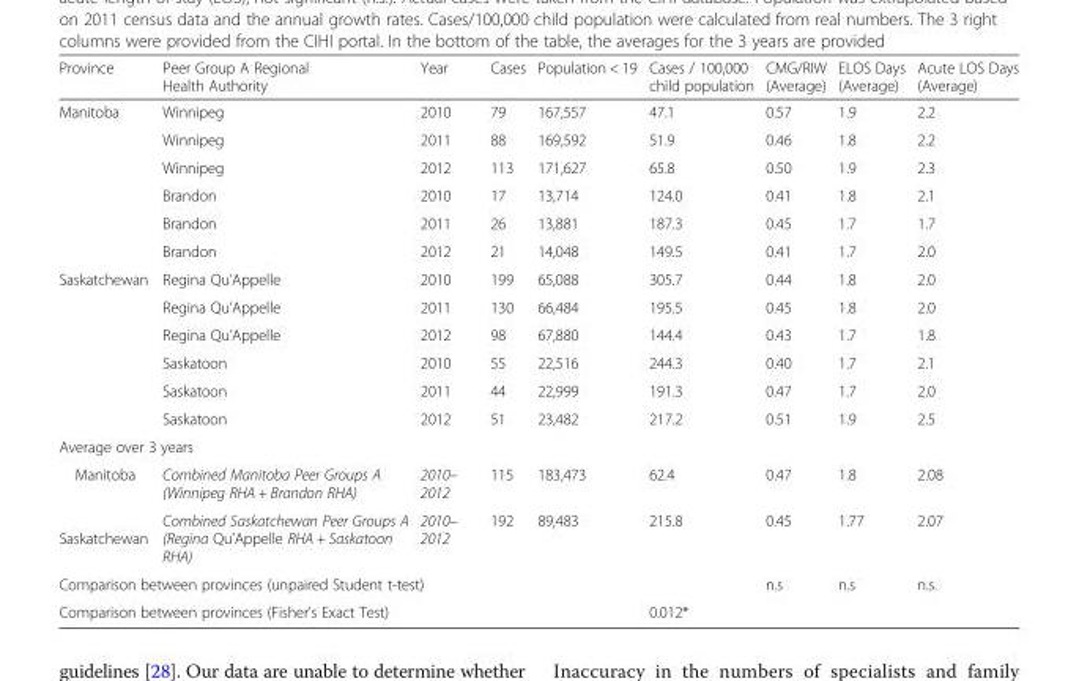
<table><thead><tr><td>Province</td><td>Peer Group A Regional Health Authority</td><td>Year</td><td>Cases</td><td>Population &lt; 19</td><td>Cases / 100,000 child population</td><td>CMG/RIW (Average)</td><td>ELOS Days (Average)</td><td>Acute LOS Days (Average)</td></tr></thead><tbody><tr><td rowspan="6">Manitoba</td><td>Winnipeg</td><td>2010</td><td>79</td><td>167,557</td><td>47.1</td><td>0.57</td><td>1.9</td><td>2.2</td></tr><tr><td>Winnipeg</td><td>2011</td><td>88</td><td>169,592</td><td>51.9</td><td>0.46</td><td>1.8</td><td>2.2</td></tr><tr><td>Winnipeg</td><td>2012</td><td>113</td><td>171,627</td><td>65.8</td><td>0.50</td><td>1.9</td><td>2.3</td></tr><tr><td>Brandon</td><td>2010</td><td>17</td><td>13,714</td><td>124.0</td><td>0.41</td><td>1.8</td><td>2.1</td></tr><tr><td>Brandon</td><td>2011</td><td>26</td><td>13,881</td><td>187.3</td><td>0.45</td><td>1.7</td><td>1.7</td></tr><tr><td>Brandon</td><td>2012</td><td>21</td><td>14,048</td><td>149.5</td><td>0.41</td><td>1.7</td><td>2.0</td></tr><tr><td rowspan="6">Saskatchewan</td><td>Regina Qu’Appelle</td><td>2010</td><td>199</td><td>65,088</td><td>305.7</td><td>0.44</td><td>1.8</td><td>2.0</td></tr><tr><td>Regina Qu’Appelle</td><td>2011</td><td>130</td><td>66,484</td><td>195.5</td><td>0.45</td><td>1.8</td><td>2.0</td></tr><tr><td>Regina Qu’Appelle</td><td>2012</td><td>98</td><td>67,880</td><td>144.4</td><td>0.43</td><td>1.7</td><td>1.8</td></tr><tr><td>Saskatoon</td><td>2010</td><td>55</td><td>22,516</td><td>244.3</td><td>0.40</td><td>1.7</td><td>2.1</td></tr><tr><td>Saskatoon</td><td>2011</td><td>44</td><td>22,999</td><td>191.3</td><td>0.47</td><td>1.7</td><td>2.0</td></tr><tr><td>Saskatoon</td><td>2012</td><td>51</td><td>23,482</td><td>217.2</td><td>0.51</td><td>1.9</td><td>2.5</td></tr><tr><td colspan="9">Average over 3 years</td></tr><tr><td>Manitoba</td><td>Combined Manitoba Peer Groups A (Winnipeg RHA + Brandon RHA)</td><td>2010– 2012</td><td>115</td><td>183,473</td><td>62.4</td><td>0.47</td><td>1.8</td><td>2.08</td></tr><tr><td>Saskatchewan</td><td>Combined Saskatchewan Peer Groups A (Regina Qu’Appelle RHA + Saskatoon RHA)</td><td>2010– 2012</td><td>192</td><td>89,483</td><td>215.8</td><td>0.45</td><td>1.77</td><td>2.07</td></tr><tr><td colspan="3">Comparison between provinces (unpaired Student t-test)</td><td colspan="3"></td><td>n.s</td><td>n.s</td><td>n.s.</td></tr><tr><td colspan="3">Comparison between provinces (Fisher’s Exact Test)</td><td colspan="2"></td><td>0.012*</td><td colspan="3"></td></tr></tbody></table>